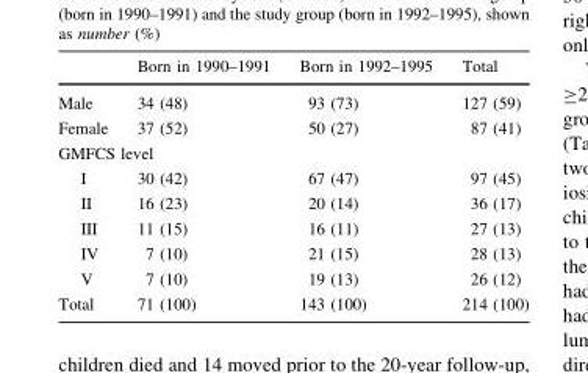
<table><thead><tr><td></td><td>Born in 1990–1991</td><td>Born in 1992–1995</td><td>Total</td></tr></thead><tbody><tr><td>Male</td><td>34 (48)</td><td>93 (73)</td><td>127 (59)</td></tr><tr><td>Female</td><td>37 (52)</td><td>50 (27)</td><td>87 (41)</td></tr><tr><td colspan="4">GMFCS level</td></tr><tr><td>I</td><td>30 (42)</td><td>67 (47)</td><td>97 (45)</td></tr><tr><td>II</td><td>16 (23)</td><td>20 (14)</td><td>36 (17)</td></tr><tr><td>III</td><td>11 (15)</td><td>16 (11)</td><td>27 (13)</td></tr><tr><td>IV</td><td>7 (10)</td><td>21 (15)</td><td>28 (13)</td></tr><tr><td>V</td><td>7 (10)</td><td>19 (13)</td><td>26 (12)</td></tr><tr><td>Total</td><td>71 (100)</td><td>143 (100)</td><td>214 (100)</td></tr></tbody></table>